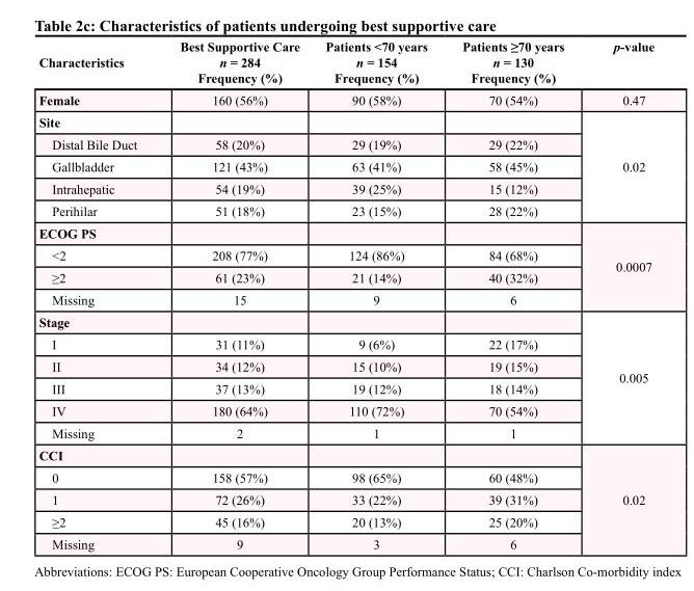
<table><thead><tr><td>Characteristics</td><td>Best Supportive Care n = 284 Frequency (%)</td><td>Patients &lt;70 years n = 154 Frequency (%)</td><td>Patients ≥70 years n = 130 Frequency (%)</td><td>p-value</td></tr></thead><tbody><tr><td>Female</td><td>160 (56%)</td><td>90 (58%)</td><td>70 (54%)</td><td>0.47</td></tr><tr><td colspan="4">Site</td><td rowspan="5">0.02</td></tr><tr><td>Distal Bile Duct</td><td>58 (20%)</td><td>29 (19%)</td><td>29 (22%)</td></tr><tr><td>Gallbladder</td><td>121 (43%)</td><td>63 (41%)</td><td>58 (45%)</td></tr><tr><td>Intrahepatic</td><td>54 (19%)</td><td>39 (25%)</td><td>15 (12%)</td></tr><tr><td>Perihilar</td><td>51 (18%)</td><td>23 (15%)</td><td>28 (22%)</td></tr><tr><td colspan="4">ECOG PS</td><td rowspan="4">0.0007</td></tr><tr><td>&lt;2</td><td>208 (77%)</td><td>124 (86%)</td><td>84 (68%)</td></tr><tr><td>≥2</td><td>61 (23%)</td><td>21 (14%)</td><td>40 (32%)</td></tr><tr><td>Missing</td><td>15</td><td>9</td><td>6</td></tr><tr><td colspan="4">Stage</td><td rowspan="6">0.005</td></tr><tr><td>I</td><td>31 (11%)</td><td>9 (6%)</td><td>22 (17%)</td></tr><tr><td>II</td><td>34 (12%)</td><td>15 (10%)</td><td>19 (15%)</td></tr><tr><td>III</td><td>37 (13%)</td><td>19 (12%)</td><td>18 (14%)</td></tr><tr><td>IV</td><td>180 (64%)</td><td>110 (72%)</td><td>70 (54%)</td></tr><tr><td>Missing</td><td>2</td><td>1</td><td>1</td></tr><tr><td colspan="4">CCI</td><td rowspan="5">0.02</td></tr><tr><td>0</td><td>158 (57%)</td><td>98 (65%)</td><td>60 (48%)</td></tr><tr><td>1</td><td>72 (26%)</td><td>33 (22%)</td><td>39 (31%)</td></tr><tr><td>≥2</td><td>45 (16%)</td><td>20 (13%)</td><td>25 (20%)</td></tr><tr><td>Missing</td><td>9</td><td>3</td><td>6</td></tr></tbody></table>